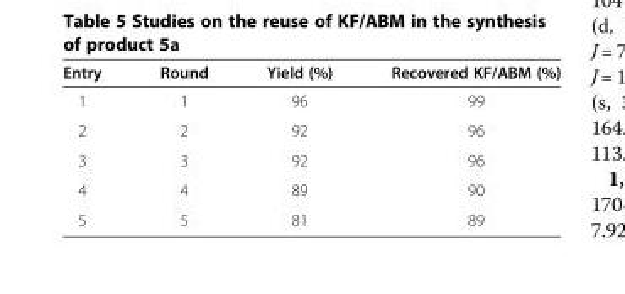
<table><thead><tr><td>Entry</td><td>Round</td><td>Yield (%)</td><td>Recovered KF/ABM (%)</td></tr></thead><tbody><tr><td>1</td><td>1</td><td>96</td><td>99</td></tr><tr><td>2</td><td>2</td><td>92</td><td>96</td></tr><tr><td>3</td><td>3</td><td>92</td><td>96</td></tr><tr><td>4</td><td>4</td><td>89</td><td>90</td></tr><tr><td>5</td><td>5</td><td>81</td><td>89</td></tr></tbody></table>